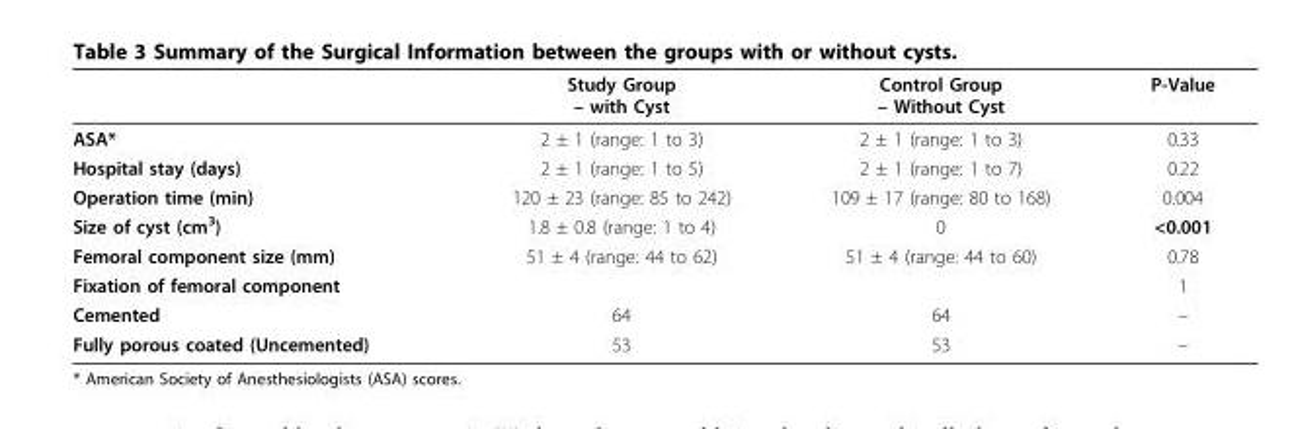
<table><thead><tr><td></td><td>Study Group – with Cyst</td><td>Control Group – Without Cyst</td><td>P-Value</td></tr></thead><tbody><tr><td>ASA*</td><td>2 ± 1 (range: 1 to 3)</td><td>2 ± 1 (range: 1 to 3)</td><td>0.33</td></tr><tr><td>Hospital stay (days)</td><td>2 ± 1 (range: 1 to 5)</td><td>2 ± 1 (range: 1 to 7)</td><td>0.22</td></tr><tr><td>Operation time (min)</td><td>120 ± 23 (range: 85 to 242)</td><td>109 ± 17 (range: 80 to 168)</td><td>0.004</td></tr><tr><td>Size of cyst (cm<sup>3</sup>)</td><td>1.8 ± 0.8 (range: 1 to 4)</td><td>0</td><td>&lt;0.001</td></tr><tr><td>Femoral component size (mm)</td><td>51 ± 4 (range: 44 to 62)</td><td>51 ± 4 (range: 44 to 60)</td><td>0.78</td></tr><tr><td>Fixation of femoral component</td><td></td><td></td><td>1</td></tr><tr><td>Cemented</td><td>64</td><td>64</td><td>–</td></tr><tr><td>Fully porous coated (Uncemented)</td><td>53</td><td>53</td><td>–</td></tr></tbody></table>